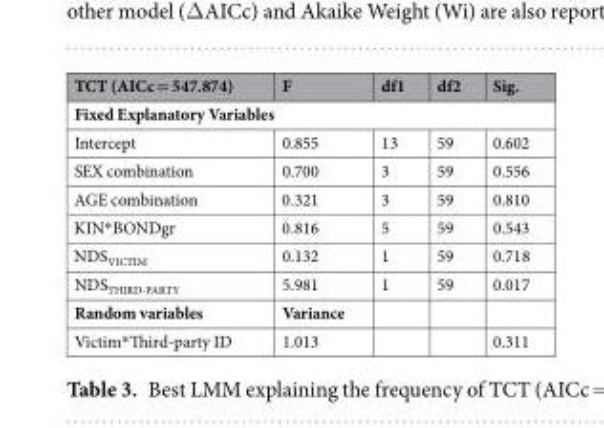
<table><thead><tr><td>TCT (AICc = 547.874)</td><td>F</td><td>df1</td><td>df2</td><td>Sig.</td></tr></thead><tbody><tr><td colspan="5">Fixed Explanatory Variables</td></tr><tr><td>Intercept</td><td>0.855</td><td>13</td><td>59</td><td>0.602</td></tr><tr><td>SEX combination</td><td>0.700</td><td>3</td><td>59</td><td>0.556</td></tr><tr><td>AGE combination</td><td>0.321</td><td>3</td><td>59</td><td>0.810</td></tr><tr><td>KIN*BONDgr</td><td>0.816</td><td>5</td><td>59</td><td>0.543</td></tr><tr><td>NDS<sub>VICTIM</sub></td><td>0.132</td><td>1</td><td>59</td><td>0.718</td></tr><tr><td>NDS<sub>THIRD-PARTY</sub></td><td>5.981</td><td>1</td><td>59</td><td>0.017</td></tr><tr><td>Random variables</td><td>Variance</td><td></td><td></td><td></td></tr><tr><td>Victim*Third-party ID</td><td>1.013</td><td></td><td></td><td>0.311</td></tr></tbody></table>